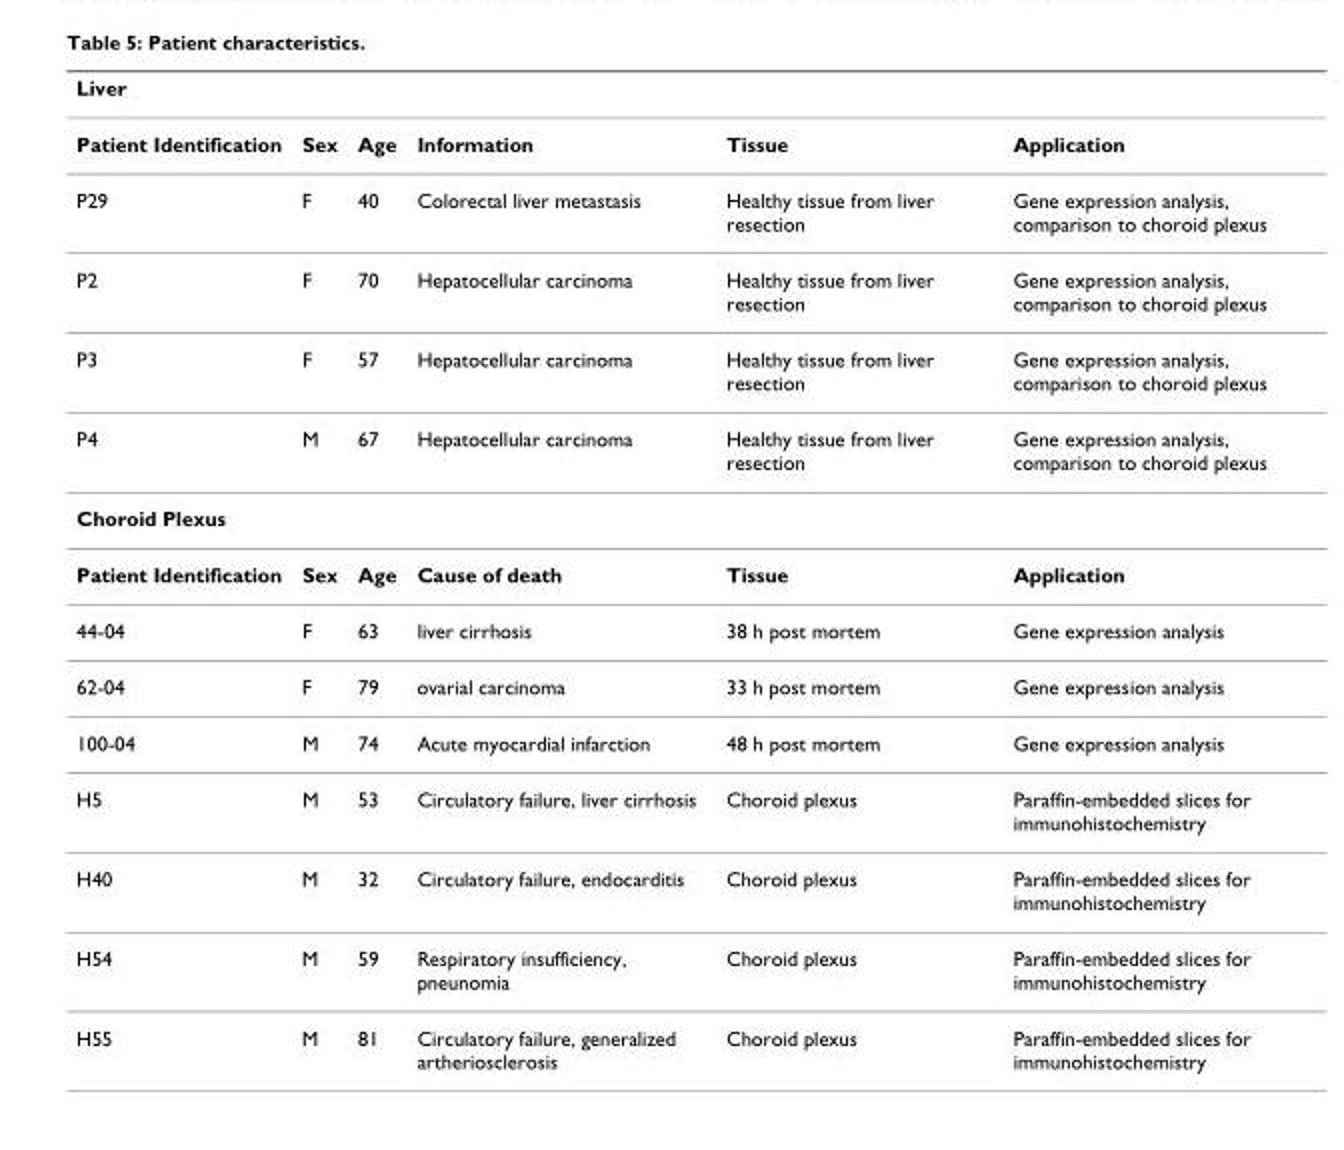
<table><thead><tr><td>Liver</td><td></td><td></td><td></td><td></td><td></td></tr></thead><tbody><tr><td>Patient Identification</td><td>Sex</td><td>Age</td><td>Information</td><td>Tissue</td><td>Application</td></tr><tr><td>P29</td><td>F</td><td>40</td><td>Colorectal liver metastasis</td><td>Healthy tissue from liver resection</td><td>Gene expression analysis, comparison to choroid plexus</td></tr><tr><td>P2</td><td>F</td><td>70</td><td>Hepatocellular carcinoma</td><td>Healthy tissue from liver resection</td><td>Gene expression analysis, comparison to choroid plexus</td></tr><tr><td>P3</td><td>F</td><td>57</td><td>Hepatocellular carcinoma</td><td>Healthy tissue from liver resection</td><td>Gene expression analysis, comparison to choroid plexus</td></tr><tr><td>P4</td><td>M</td><td>67</td><td>Hepatocellular carcinoma</td><td>Healthy tissue from liver resection</td><td>Gene expression analysis, comparison to choroid plexus</td></tr><tr><td colspan="6">Choroid Plexus</td></tr><tr><td>Patient Identification</td><td>Sex</td><td>Age</td><td>Cause of death</td><td>Tissue</td><td>Application</td></tr><tr><td>44-04</td><td>F</td><td>63</td><td>liver cirrhosis</td><td>38 h post mortem</td><td>Gene expression analysis</td></tr><tr><td>62-04</td><td>F</td><td>79</td><td>ovarial carcinoma</td><td>33 h post mortem</td><td>Gene expression analysis</td></tr><tr><td>100-04</td><td>M</td><td>74</td><td>Acute myocardial infarction</td><td>48 h post mortem</td><td>Gene expression analysis</td></tr><tr><td>H5</td><td>M</td><td>53</td><td>Circulatory failure, liver cirrhosis</td><td>Choroid plexus</td><td>Paraffin-embedded slices for immunohistochemistry</td></tr><tr><td>H40</td><td>M</td><td>32</td><td>Circulatory failure, endocarditis</td><td>Choroid plexus</td><td>Paraffin-embedded slices for immunohistochemistry</td></tr><tr><td>H54</td><td>M</td><td>59</td><td>Respiratory insufficiency, pneunomia</td><td>Choroid plexus</td><td>Paraffin-embedded slices for immunohistochemistry</td></tr><tr><td>H55</td><td>M</td><td>81</td><td>Circulatory failure, generalized artheriosclerosis</td><td>Choroid plexus</td><td>Paraffin-embedded slices for immunohistochemistry</td></tr></tbody></table>